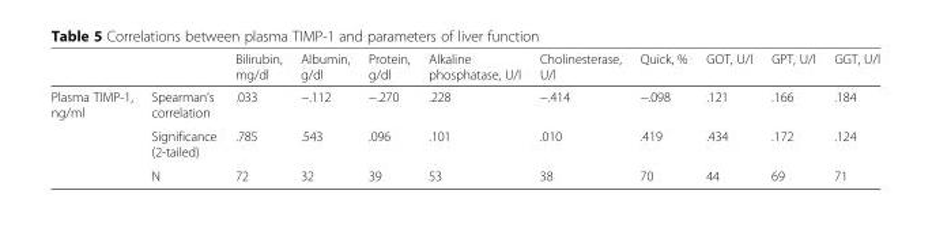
<table><thead><tr><td></td><td></td><td>Bilirubin, mg/dl</td><td>Albumin, g/dl</td><td>Protein, g/dl</td><td>Alkaline phosphatase, U/l</td><td>Cholinesterase, U/l</td><td>Quick, %</td><td>GOT, U/l</td><td>GPT, U/l</td><td>GGT, U/l</td></tr></thead><tbody><tr><td rowspan="3">Plasma TIMP-1, ng/ml</td><td>Spearman’s correlation</td><td>.033</td><td>−.112</td><td>−.270</td><td>.228</td><td>−.414</td><td>−.098</td><td>.121</td><td>.166</td><td>.184</td></tr><tr><td>Significance (2-tailed)</td><td>.785</td><td>.543</td><td>.096</td><td>.101</td><td>.010</td><td>.419</td><td>.434</td><td>.172</td><td>.124</td></tr><tr><td>N</td><td>72</td><td>32</td><td>39</td><td>53</td><td>38</td><td>70</td><td>44</td><td>69</td><td>71</td></tr></tbody></table>